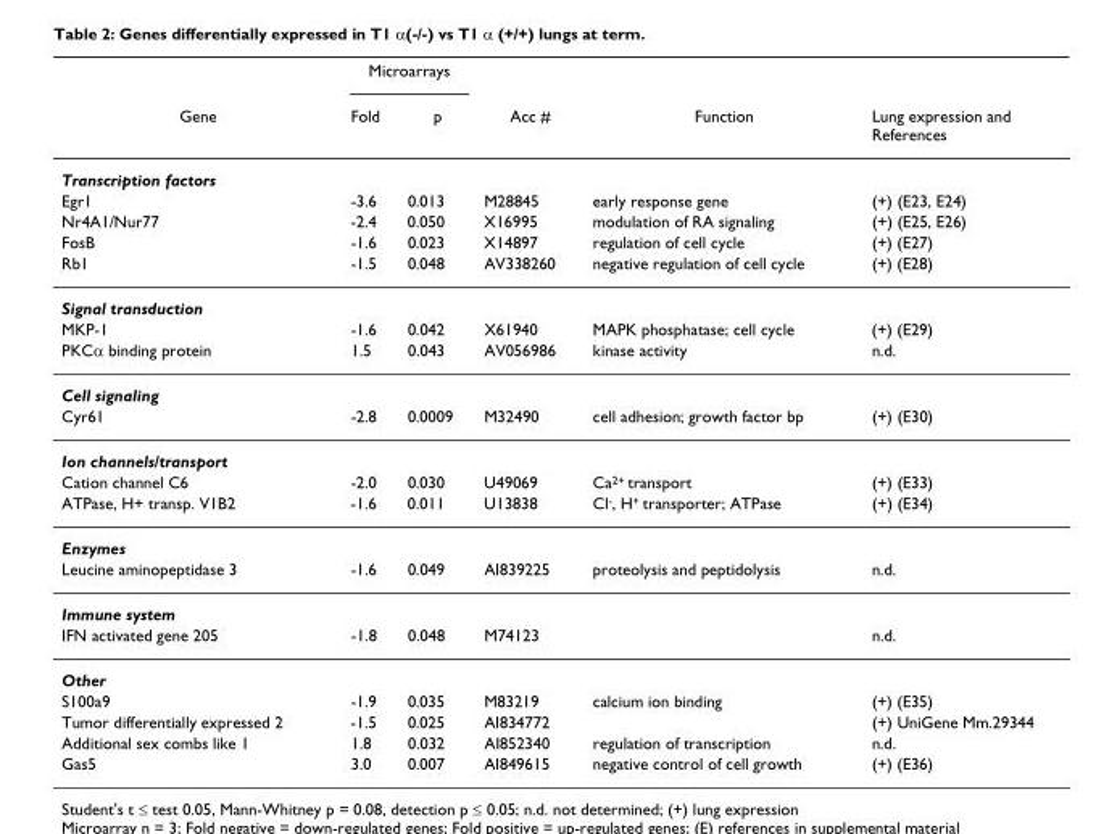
<table><thead><tr><td rowspan="2">Gene</td><td colspan="2">Microarrays</td><td rowspan="2">Acc #</td><td rowspan="2">Function</td><td rowspan="2">Lung expression and References</td></tr><tr><td>Fold</td><td>p</td></tr></thead><tbody><tr><td colspan="6">Transcription factors</td></tr><tr><td>Egr1</td><td>-3.6</td><td>0.013</td><td>M28845</td><td>early response gene</td><td>(+) (E23, E24)</td></tr><tr><td>Nr4A1/Nur77</td><td>-2.4</td><td>0.050</td><td>X16995</td><td>modulation of RA signaling</td><td>(+) (E25, E26)</td></tr><tr><td>FosB</td><td>-1.6</td><td>0.023</td><td>X14897</td><td>regulation of cell cycle</td><td>(+) (E27)</td></tr><tr><td>Rb1</td><td>-1.5</td><td>0.048</td><td>AV338260</td><td>negative regulation of cell cycle</td><td>(+) (E28)</td></tr><tr><td colspan="6">Signal transduction</td></tr><tr><td>MKP-1</td><td>-1.6</td><td>0.042</td><td>X61940</td><td>MAPK phosphatase; cell cycle</td><td>(+) (E29)</td></tr><tr><td>PKCα binding protein</td><td>1.5</td><td>0.043</td><td>AV056986</td><td>kinase activity</td><td>n.d.</td></tr><tr><td colspan="6">Cell signaling</td></tr><tr><td>Cyr61</td><td>-2.8</td><td>0.0009</td><td>M32490</td><td>cell adhesion; growth factor bp</td><td>(+) (E30)</td></tr><tr><td colspan="6">Ion channels/transport</td></tr><tr><td>Cation channel C6</td><td>-2.0</td><td>0.030</td><td>U49069</td><td>Ca<sup>2+</sup> transport</td><td>(+) (E33)</td></tr><tr><td>ATPase, H+ transp. V1B2</td><td>-1.6</td><td>0.011</td><td>U13838</td><td>Cl<sup>-</sup>, H<sup>+</sup> transporter; ATPase</td><td>(+) (E34)</td></tr><tr><td colspan="6">Enzymes</td></tr><tr><td>Leucine aminopeptidase 3</td><td>-1.6</td><td>0.049</td><td>AI839225</td><td>proteolysis and peptidolysis</td><td>n.d.</td></tr><tr><td colspan="6">Immune system</td></tr><tr><td>IFN activated gene 205</td><td>-1.8</td><td>0.048</td><td>M74123</td><td></td><td>n.d.</td></tr><tr><td colspan="6">Other</td></tr><tr><td>S100a9</td><td>-1.9</td><td>0.035</td><td>M83219</td><td>calcium ion binding</td><td>(+) (E35)</td></tr><tr><td>Tumor differentially expressed 2</td><td>-1.5</td><td>0.025</td><td>AI834772</td><td></td><td>(+) UniGene Mm.29344</td></tr><tr><td>Additional sex combs like 1</td><td>1.8</td><td>0.032</td><td>AI852340</td><td>regulation of transcription</td><td>n.d.</td></tr><tr><td>Gas5</td><td>3.0</td><td>0.007</td><td>AI849615</td><td>negative control of cell growth</td><td>(+) (E36)</td></tr></tbody></table>